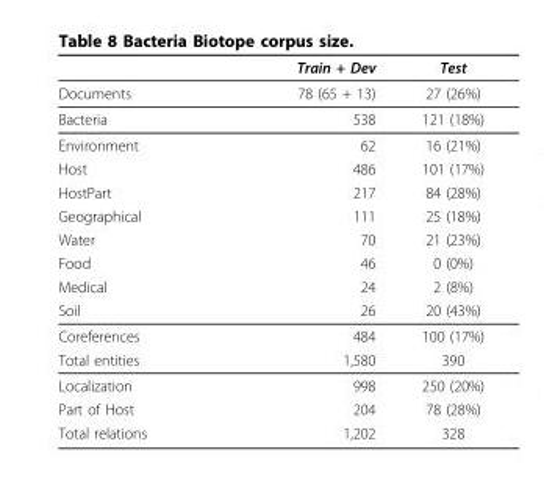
<table><thead><tr><td></td><td>Train + Dev</td><td>Test</td></tr></thead><tbody><tr><td>Documents</td><td>78 (65 + 13)</td><td>27 (26%)</td></tr><tr><td>Bacteria</td><td>538</td><td>121 (18%)</td></tr><tr><td>Environment</td><td>62</td><td>16 (21%)</td></tr><tr><td>Host</td><td>486</td><td>101 (17%)</td></tr><tr><td>HostPart</td><td>217</td><td>84 (28%)</td></tr><tr><td>Geographical</td><td>111</td><td>25 (18%)</td></tr><tr><td>Water</td><td>70</td><td>21 (23%)</td></tr><tr><td>Food</td><td>46</td><td>0 (0%)</td></tr><tr><td>Medical</td><td>24</td><td>2 (8%)</td></tr><tr><td>Soil</td><td>26</td><td>20 (43%)</td></tr><tr><td>Coreferences</td><td>484</td><td>100 (17%)</td></tr><tr><td>Total entities</td><td>1,580</td><td>390</td></tr><tr><td>Localization</td><td>998</td><td>250 (20%)</td></tr><tr><td>Part of Host</td><td>204</td><td>78 (28%)</td></tr><tr><td>Total relations</td><td>1,202</td><td>328</td></tr></tbody></table>